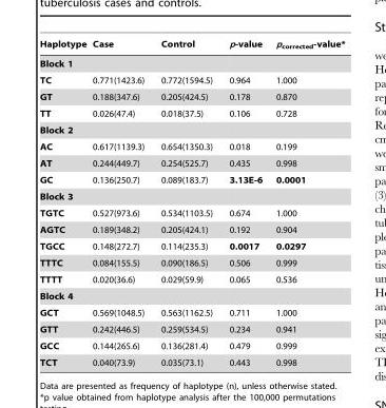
<table><thead><tr><td>Haplotype</td><td>Case</td><td>Control</td><td>p-value</td><td>p<sub>corrected</sub>-value*</td></tr></thead><tbody><tr><td colspan="5">Block 1</td></tr><tr><td>TC</td><td>0.771(1423.6)</td><td>0.772(1594.5)</td><td>0.964</td><td>1.000</td></tr><tr><td>GT</td><td>0.188(347.6)</td><td>0.205(424.5)</td><td>0.178</td><td>0.870</td></tr><tr><td>TT</td><td>0.026(47.4)</td><td>0.018(37.5)</td><td>0.106</td><td>0.728</td></tr><tr><td colspan="5">Block 2</td></tr><tr><td>AC</td><td>0.617(1139.3)</td><td>0.654(1350.3)</td><td>0.018</td><td>0.199</td></tr><tr><td>AT</td><td>0.244(449.7)</td><td>0.254(525.7)</td><td>0.435</td><td>0.998</td></tr><tr><td>GC</td><td>0.136(250.7)</td><td>0.089(183.7)</td><td>3.13E-6</td><td>0.0001</td></tr><tr><td colspan="5">Block 3</td></tr><tr><td>TGTC</td><td>0.527(973.6)</td><td>0.534(1103.5)</td><td>0.674</td><td>1.000</td></tr><tr><td>AGTC</td><td>0.189(348.2)</td><td>0.205(424.1)</td><td>0.192</td><td>0.904</td></tr><tr><td>TGCC</td><td>0.148(272.7)</td><td>0.114(235.3)</td><td>0.0017</td><td>0.0297</td></tr><tr><td>TTTC</td><td>0.084(155.5)</td><td>0.090(186.5)</td><td>0.506</td><td>0.999</td></tr><tr><td>TTTT</td><td>0.020(36.6)</td><td>0.029(59.9)</td><td>0.065</td><td>0.536</td></tr><tr><td colspan="5">Block 4</td></tr><tr><td>GCT</td><td>0.569(1048.5)</td><td>0.563(1162.5)</td><td>0.711</td><td>1.000</td></tr><tr><td>GTT</td><td>0.242(446.5)</td><td>0.259(534.5)</td><td>0.234</td><td>0.941</td></tr><tr><td>GCC</td><td>0.144(265.6)</td><td>0.136(281.4)</td><td>0.479</td><td>0.999</td></tr><tr><td>TCT</td><td>0.040(73.9)</td><td>0.035(73.1)</td><td>0.443</td><td>0.998</td></tr></tbody></table>